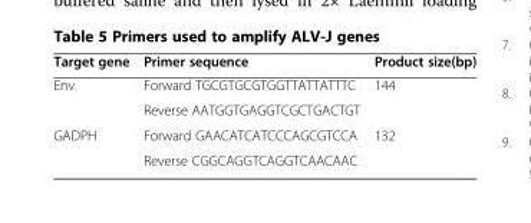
<table><thead><tr><td>Target gene</td><td>Primer sequence</td><td>Product size(bp)</td></tr></thead><tbody><tr><td rowspan="2">Env</td><td>Forward TGCGTGCGTGGTTATTATTTC</td><td rowspan="2">144</td></tr><tr><td>Reverse AATGGTGAGGTCGCTGACTGT</td></tr><tr><td rowspan="2">GADPH</td><td>Forward GAACATCATCCCAGCGTCCA</td><td rowspan="2">132</td></tr><tr><td>Reverse CGGCAGGTCAGGTCAACAAC</td></tr></tbody></table>